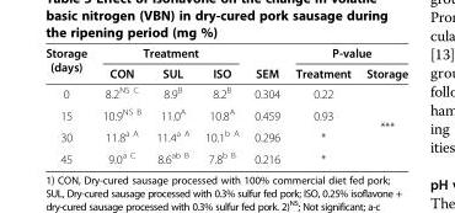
<table><thead><tr><td rowspan="2">Storage (days)</td><td colspan="3">Treatment</td><td rowspan="2">SEM</td><td colspan="2">P-value</td></tr><tr><td>CON</td><td>SUL</td><td>ISO</td><td>Treatment</td><td>Storage</td></tr></thead><tbody><tr><td>0</td><td>8.2<sup>NS C</sup></td><td>8.9<sup>B</sup></td><td>8.2<sup>B</sup></td><td>0.304</td><td>0.22</td><td rowspan="4">***</td></tr><tr><td>15</td><td>10.9<sup>NS B</sup></td><td>11.0<sup>A</sup></td><td>10.8<sup>A</sup></td><td>0.459</td><td>0.93</td></tr><tr><td>30</td><td>11.8<sup>a A</sup></td><td>11.4<sup>a A</sup></td><td>10.1<sup>b A</sup></td><td>0.296</td><td>*</td></tr><tr><td>45</td><td>9.0<sup>a C</sup></td><td>8.6<sup>ab B</sup></td><td>7.8<sup>b B</sup></td><td>0.216</td><td>*</td></tr></tbody></table>